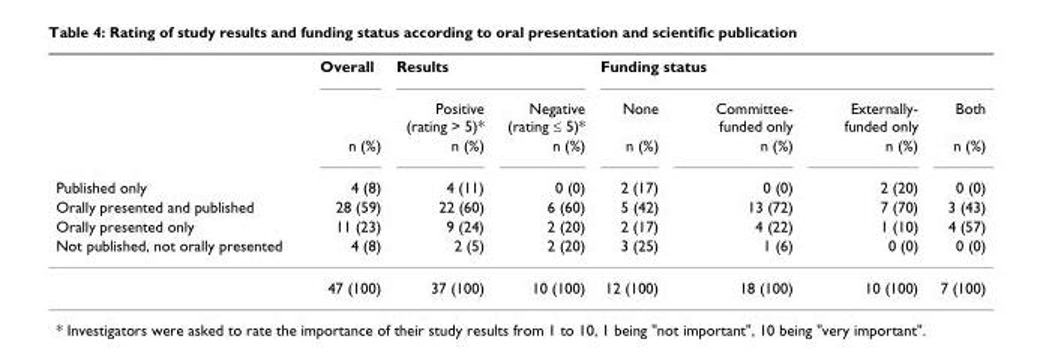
<table><thead><tr><td rowspan="7">Published only Orally presented and published Orally presented only Not published, not orally presented</td><td rowspan="7">Overall n (%) 4 (8) 28 (59) 11 (23) 4 (8)</td><td colspan="2">Results</td><td colspan="4">Funding status</td></tr><tr><td rowspan="6">Positive (rating &gt; 5)* n (%) 4 (11) 22 (60) 9 (24) 2 (5)</td><td rowspan="6">Negative (rating ≤ 5)* n (%) 0 (0) 6 (60) 2 (20) 2 (20)</td><td rowspan="6">None n (%) 2 (17) 5 (42) 2 (17) 3 (25)</td><td rowspan="6">Committee- funded only n (%) 0 (0) 13 (72) 4 (22) 1 (6)</td><td rowspan="6">Externally- funded only n (%) 2 (20) 7 (70) 1 (10) 0 (0)</td><td rowspan="6">Both n (%) 0 (0) 3 (43) 4 (57) 0 (0)</td></tr><tr></tr><tr></tr><tr></tr><tr></tr><tr></tr></thead><tbody><tr><td></td><td>47 (100)</td><td>37 (100)</td><td>10 (100)</td><td>12 (100)</td><td>18 (100)</td><td>10 (100)</td><td>7 (100)</td></tr></tbody></table>